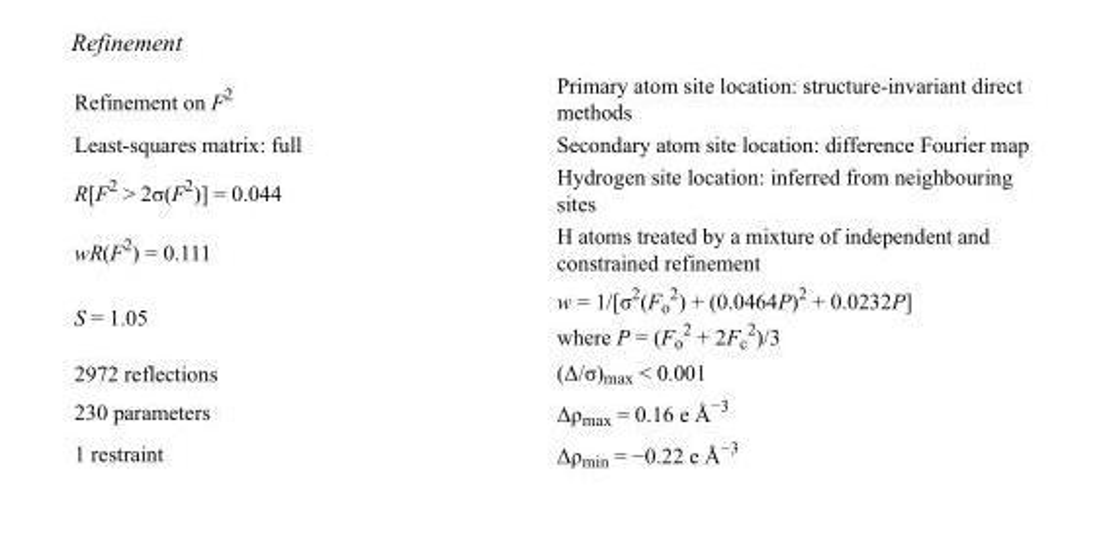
<table><tbody><tr><td>Refinement on F<sup>2</sup></td><td>Primary atom site location: structure-invariant direct methods</td></tr><tr><td>Least-squares matrix: full</td><td>Secondary atom site location: difference Fourier map</td></tr><tr><td>R[F<sup>2</sup> &gt; 2σ(F<sup>2</sup>)] = 0.044</td><td>Hydrogen site location: inferred from neighbouring sites</td></tr><tr><td>wR(F<sup>2</sup>) = 0.111</td><td>H atoms treated by a mixture of independent and constrained refinement</td></tr><tr><td>S = 1.05</td><td>w = 1/[σ<sup>2</sup>(F<sub>o</sub> <sup>2</sup>) + (0.0464P)<sup>2</sup> + 0.0232P] where P = (F<sub>o</sub> <sup>2</sup> + 2F<sub>c</sub> <sup>2</sup>)/3</td></tr><tr><td>2972 reflections</td><td>(Δ/σ)<sub>max</sub> &lt; 0.001</td></tr><tr><td>230 parameters</td><td>Δρ<sub>max</sub> = 0.16 e Å<sup>−3</sup></td></tr><tr><td>1 restraint</td><td>Δρ<sub>min</sub> = −0.22 e Å<sup>−3</sup></td></tr></tbody></table>